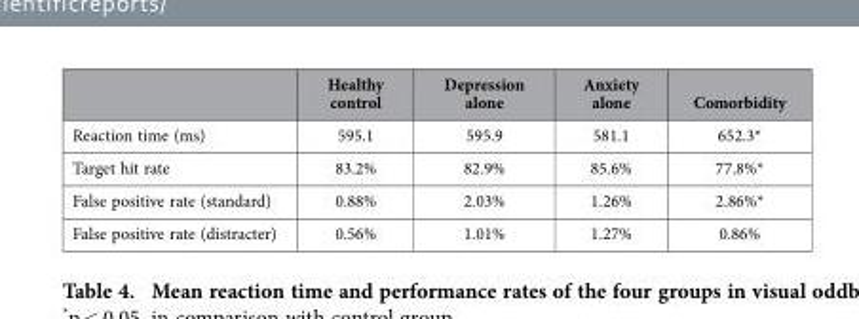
<table><thead><tr><td></td><td>Healthy control</td><td>Depression alone</td><td>Anxiety alone</td><td>Comorbidity</td></tr></thead><tbody><tr><td>Reaction time (ms)</td><td>595.1</td><td>595.9</td><td>581.1</td><td>652.3*</td></tr><tr><td>Target hit rate</td><td>83.2%</td><td>82.9%</td><td>85.6%</td><td>77.8%*</td></tr><tr><td>False positive rate (standard)</td><td>0.88%</td><td>2.03%</td><td>1.26%</td><td>2.86%*</td></tr><tr><td>False positive rate (distracter)</td><td>0.56%</td><td>1.01%</td><td>1.27%</td><td>0.86%</td></tr></tbody></table>